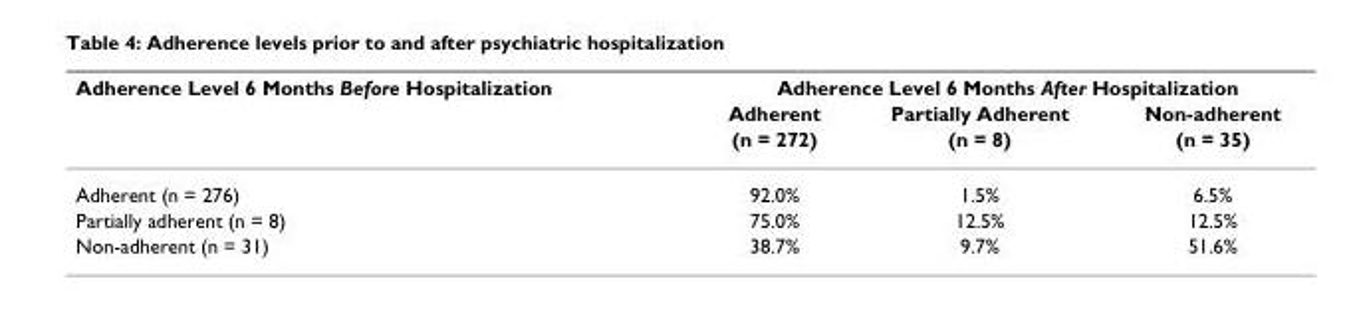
<table><thead><tr><td rowspan="3">Adherence Level 6 Months Before Hospitalization</td><td colspan="3">Adherence Level 6 Months After Hospitalization</td></tr><tr><td rowspan="2">Adherent (n = 272)</td><td rowspan="2">Partially Adherent (n = 8)</td><td rowspan="2">Non-adherent (n = 35)</td></tr><tr></tr></thead><tbody><tr><td>Adherent (n = 276)</td><td>92.0%</td><td>1.5%</td><td>6.5%</td></tr><tr><td>Partially adherent (n = 8)</td><td>75.0%</td><td>12.5%</td><td>12.5%</td></tr><tr><td>Non-adherent (n = 31)</td><td>38.7%</td><td>9.7%</td><td>51.6%</td></tr></tbody></table>